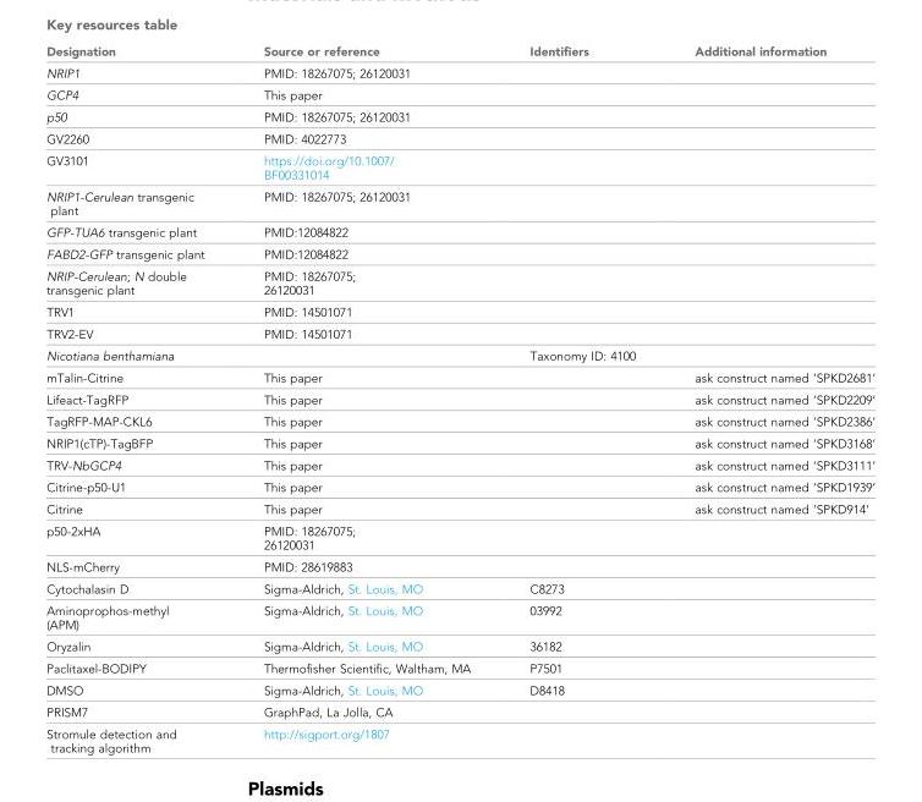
<table><thead><tr><td>Designation</td><td>Source or reference</td><td>Identifiers</td><td>Additional information</td></tr></thead><tbody><tr><td>NRIP1</td><td>PMID: 18267075; 26120031</td><td></td><td></td></tr><tr><td>GCP4</td><td>This paper</td><td></td><td></td></tr><tr><td>p50</td><td>PMID: 18267075; 26120031</td><td></td><td></td></tr><tr><td>GV2260</td><td>PMID: 4022773</td><td></td><td></td></tr><tr><td>GV3101</td><td>https://doi.org/10.1007/ BF00331014</td><td></td><td></td></tr><tr><td>NRIP1-Cerulean transgenic plant</td><td>PMID: 18267075; 26120031</td><td></td><td></td></tr><tr><td>GFP-TUA6 transgenic plant</td><td>PMID:12084822</td><td></td><td></td></tr><tr><td>FABD2-GFP transgenic plant</td><td>PMID:12084822</td><td></td><td></td></tr><tr><td>NRIP-Cerulean; N double transgenic plant</td><td>PMID: 18267075; 26120031</td><td></td><td></td></tr><tr><td>TRV1</td><td>PMID: 14501071</td><td></td><td></td></tr><tr><td>TRV2-EV</td><td>PMID: 14501071</td><td></td><td></td></tr><tr><td>Nicotiana benthamiana</td><td></td><td>Taxonomy ID: 4100</td><td></td></tr><tr><td>mTalin-Citrine</td><td>This paper</td><td></td><td>ask construct named ‘SPKD2681’</td></tr><tr><td>Lifeact-TagRFP</td><td>This paper</td><td></td><td>ask construct named ‘SPKD2209’</td></tr><tr><td>TagRFP-MAP-CKL6</td><td>This paper</td><td></td><td>ask construct named ‘SPKD2386’</td></tr><tr><td>NRIP1(cTP)-TagBFP</td><td>This paper</td><td></td><td>ask construct named ‘SPKD3168’</td></tr><tr><td>TRV-NbGCP4</td><td>This paper</td><td></td><td>ask construct named ‘SPKD3111’</td></tr><tr><td>Citrine-p50-U1</td><td>This paper</td><td></td><td>ask construct named ‘SPKD1939’</td></tr><tr><td>Citrine</td><td>This paper</td><td></td><td>ask construct named ‘SPKD914’</td></tr><tr><td>p50-2xHA</td><td>PMID: 18267075; 26120031</td><td></td><td></td></tr><tr><td>NLS-mCherry</td><td>PMID: 28619883</td><td></td><td></td></tr><tr><td>Cytochalasin D</td><td>Sigma-Aldrich, St. Louis, MO</td><td>C8273</td><td></td></tr><tr><td>Aminoprophos-methyl (APM)</td><td>Sigma-Aldrich, St. Louis, MO</td><td>03992</td><td></td></tr><tr><td>Oryzalin</td><td>Sigma-Aldrich, St. Louis, MO</td><td>36182</td><td></td></tr><tr><td>Paclitaxel-BODIPY</td><td>Thermofisher Scientific, Waltham, MA</td><td>P7501</td><td></td></tr><tr><td>DMSO</td><td>Sigma-Aldrich, St. Louis, MO</td><td>D8418</td><td></td></tr><tr><td>PRISM7</td><td>GraphPad, La Jolla, CA</td><td></td><td></td></tr><tr><td>Stromule detection and tracking algorithm</td><td>http://sigport.org/1807</td><td></td><td></td></tr></tbody></table>